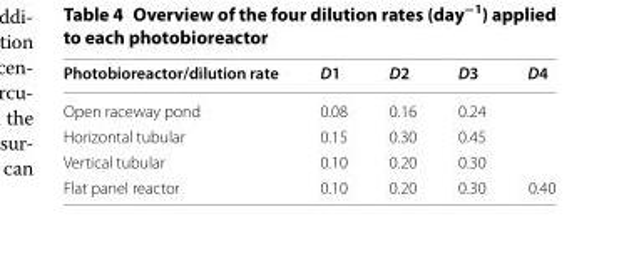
<table><thead><tr><td>Photobioreactor/dilution rate</td><td>D1</td><td>D2</td><td>D3</td><td>D4</td></tr></thead><tbody><tr><td>Open raceway pond</td><td>0.08</td><td>0.16</td><td>0.24</td><td></td></tr><tr><td>Horizontal tubular</td><td>0.15</td><td>0.30</td><td>0.45</td><td></td></tr><tr><td>Vertical tubular</td><td>0.10</td><td>0.20</td><td>0.30</td><td></td></tr><tr><td>Flat panel reactor</td><td>0.10</td><td>0.20</td><td>0.30</td><td>0.40</td></tr></tbody></table>